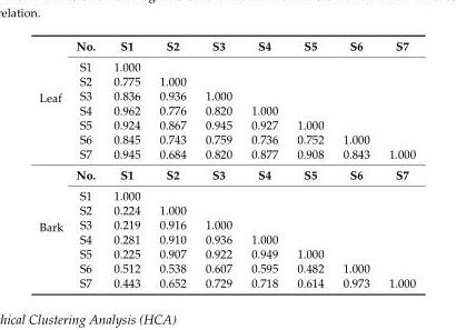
<table><tbody><tr><td rowspan="8">Leaf</td><td>No.</td><td>S1</td><td>S2</td><td>S3</td><td>S4</td><td>S5</td><td>S6</td><td>S7</td></tr><tr><td>S1</td><td>1.000</td><td></td><td></td><td></td><td></td><td></td><td></td></tr><tr><td>S2</td><td>0.775</td><td>1.000</td><td></td><td></td><td></td><td></td><td></td></tr><tr><td>S3</td><td>0.836</td><td>0.936</td><td>1.000</td><td></td><td></td><td></td><td></td></tr><tr><td>S4</td><td>0.962</td><td>0.776</td><td>0.820</td><td>1.000</td><td></td><td></td><td></td></tr><tr><td>S5</td><td>0.924</td><td>0.867</td><td>0.945</td><td>0.927</td><td>1.000</td><td></td><td></td></tr><tr><td>S6</td><td>0.845</td><td>0.743</td><td>0.759</td><td>0.736</td><td>0.752</td><td>1.000</td><td></td></tr><tr><td>S7</td><td>0.945</td><td>0.684</td><td>0.820</td><td>0.877</td><td>0.908</td><td>0.843</td><td>1.000</td></tr><tr><td rowspan="8">Bark</td><td>No.</td><td>S1</td><td>S2</td><td>S3</td><td>S4</td><td>S5</td><td>S6</td><td>S7</td></tr><tr><td>S1</td><td>1.000</td><td></td><td></td><td></td><td></td><td></td><td></td></tr><tr><td>S2</td><td>0.224</td><td>1.000</td><td></td><td></td><td></td><td></td><td></td></tr><tr><td>S3</td><td>0.219</td><td>0.916</td><td>1.000</td><td></td><td></td><td></td><td></td></tr><tr><td>S4</td><td>0.281</td><td>0.910</td><td>0.936</td><td>1.000</td><td></td><td></td><td></td></tr><tr><td>S5</td><td>0.225</td><td>0.907</td><td>0.922</td><td>0.949</td><td>1.000</td><td></td><td></td></tr><tr><td>S6</td><td>0.512</td><td>0.538</td><td>0.607</td><td>0.595</td><td>0.482</td><td>1.000</td><td></td></tr><tr><td>S7</td><td>0.443</td><td>0.652</td><td>0.729</td><td>0.718</td><td>0.614</td><td>0.973</td><td>1.000</td></tr></tbody></table>